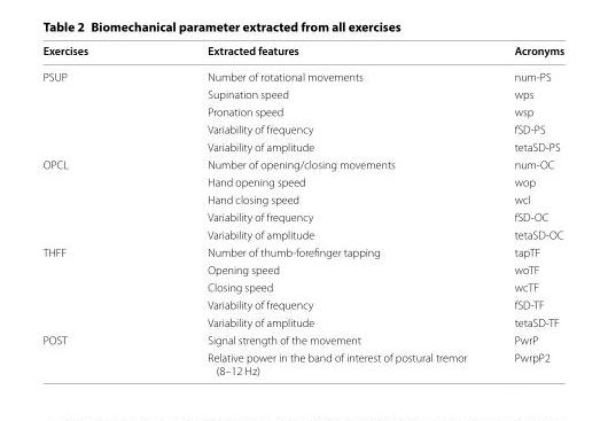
<table><thead><tr><td>Exercises</td><td>Extracted features</td><td>Acronyms</td></tr></thead><tbody><tr><td rowspan="5">PSUP</td><td>Number of rotational movements</td><td>num-PS</td></tr><tr><td>Supination speed</td><td>wps</td></tr><tr><td>Pronation speed</td><td>wsp</td></tr><tr><td>Variability of frequency</td><td>fSD-PS</td></tr><tr><td>Variability of amplitude</td><td>tetaSD-PS</td></tr><tr><td rowspan="5">OPCL</td><td>Number of opening/closing movements</td><td>num-OC</td></tr><tr><td>Hand opening speed</td><td>wop</td></tr><tr><td>Hand closing speed</td><td>wcl</td></tr><tr><td>Variability of frequency</td><td>fSD-OC</td></tr><tr><td>Variability of amplitude</td><td>tetaSD-OC</td></tr><tr><td rowspan="5">THFF</td><td>Number of thumb-forefinger tapping</td><td>tapTF</td></tr><tr><td>Opening speed</td><td>woTF</td></tr><tr><td>Closing speed</td><td>wcTF</td></tr><tr><td>Variability of frequency</td><td>fSD-TF</td></tr><tr><td>Variability of amplitude</td><td>tetaSD-TF</td></tr><tr><td rowspan="2">POST</td><td>Signal strength of the movement</td><td>PwrP</td></tr><tr><td>Relative power in the band of interest of postural tremor (8–12 Hz)</td><td>PwrpP2</td></tr></tbody></table>